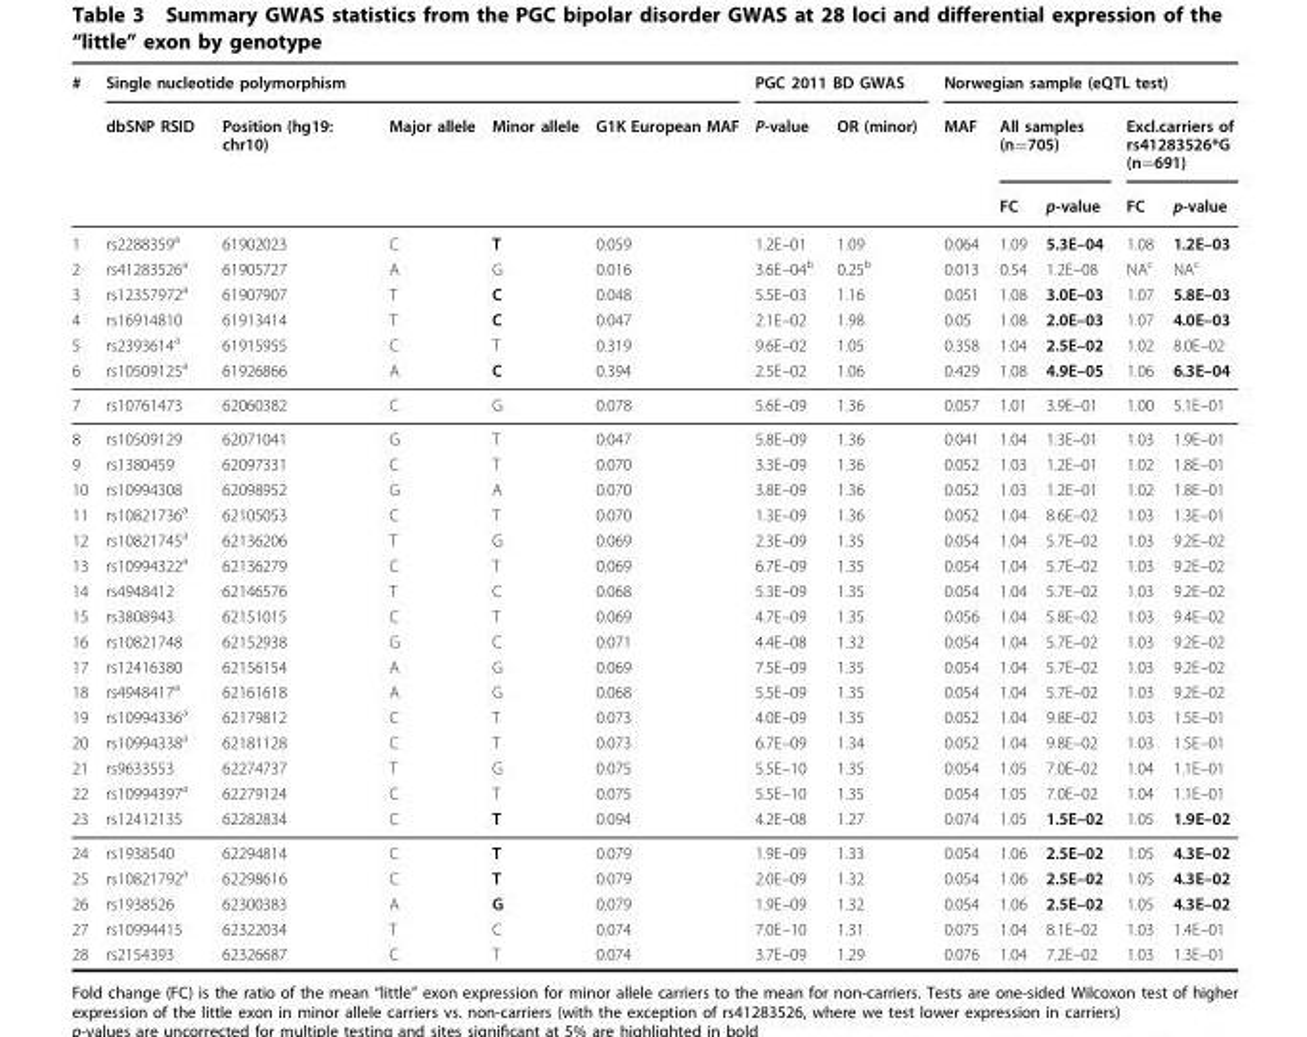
<table><thead><tr><td rowspan="3">#</td><td colspan="5">Single nucleotide polymorphism</td><td colspan="2">PGC 2011 BD GWAS</td><td colspan="5">Norwegian sample (eQTL test)</td></tr><tr><td rowspan="2">dbSNP RSID</td><td rowspan="2">Position (hg19: chr10)</td><td rowspan="2">Major allele</td><td rowspan="2">Minor allele</td><td rowspan="2">G1K European MAF</td><td rowspan="2">P-value</td><td rowspan="2">OR (minor)</td><td rowspan="2">MAF</td><td colspan="2">All samples (n=705)</td><td colspan="2">Excl.carriers of rs41283526*G (n=691)</td></tr><tr><td>FC</td><td>p-value</td><td>FC</td><td>p-value</td></tr></thead><tbody><tr><td>1</td><td>rs2288359<sup>a</sup></td><td>61902023</td><td>C</td><td>T</td><td>0.059</td><td>1.2E–01</td><td>1.09</td><td>0.064</td><td>1.09</td><td>5.3E–04</td><td>1.08</td><td>1.2E–03</td></tr><tr><td>2</td><td>rs41283526<sup>a</sup></td><td>61905727</td><td>A</td><td>G</td><td>0.016</td><td>3.6E–04<sup>b</sup></td><td>0.25<sup>b</sup></td><td>0.013</td><td>0.54</td><td>1.2E–08</td><td>NA<sup>c</sup></td><td>NA<sup>c</sup></td></tr><tr><td>3</td><td>rs12357972<sup>a</sup></td><td>61907907</td><td>T</td><td>C</td><td>0.048</td><td>5.5E–03</td><td>1.16</td><td>0.051</td><td>1.08</td><td>3.0E–03</td><td>1.07</td><td>5.8E–03</td></tr><tr><td>4</td><td>rs16914810</td><td>61913414</td><td>T</td><td>C</td><td>0.047</td><td>2.1E–02</td><td>1.98</td><td>0.05</td><td>1.08</td><td>2.0E–03</td><td>1.07</td><td>4.0E–03</td></tr><tr><td>5</td><td>rs2393614<sup>a</sup></td><td>61915955</td><td>C</td><td>T</td><td>0.319</td><td>9.6E–02</td><td>1.05</td><td>0.358</td><td>1.04</td><td>2.5E–02</td><td>1.02</td><td>8.0E–02</td></tr><tr><td>6</td><td>rs10509125<sup>a</sup></td><td>61926866</td><td>A</td><td>C</td><td>0.394</td><td>2.5E–02</td><td>1.06</td><td>0.429</td><td>1.08</td><td>4.9E–05</td><td>1.06</td><td>6.3E–04</td></tr><tr><td>7</td><td>rs10761473</td><td>62060382</td><td>C</td><td>G</td><td>0.078</td><td>5.6E–09</td><td>1.36</td><td>0.057</td><td>1.01</td><td>3.9E–01</td><td>1.00</td><td>5.1E–01</td></tr><tr><td>8</td><td>rs10509129</td><td>62071041</td><td>G</td><td>T</td><td>0.047</td><td>5.8E–09</td><td>1.36</td><td>0.041</td><td>1.04</td><td>1.3E–01</td><td>1.03</td><td>1.9E–01</td></tr><tr><td>9</td><td>rs1380459</td><td>62097331</td><td>C</td><td>T</td><td>0.070</td><td>3.3E–09</td><td>1.36</td><td>0.052</td><td>1.03</td><td>1.2E–01</td><td>1.02</td><td>1.8E–01</td></tr><tr><td>10</td><td>rs10994308</td><td>62098952</td><td>G</td><td>A</td><td>0.070</td><td>3.8E–09</td><td>1.36</td><td>0.052</td><td>1.03</td><td>1.2E–01</td><td>1.02</td><td>1.8E–01</td></tr><tr><td>11</td><td>rs10821736<sup>a</sup></td><td>62105053</td><td>C</td><td>T</td><td>0.070</td><td>1.3E–09</td><td>1.36</td><td>0.052</td><td>1.04</td><td>8.6E–02</td><td>1.03</td><td>1.3E–01</td></tr><tr><td>12</td><td>rs10821745<sup>a</sup></td><td>62136206</td><td>T</td><td>G</td><td>0.069</td><td>2.3E–09</td><td>1.35</td><td>0.054</td><td>1.04</td><td>5.7E–02</td><td>1.03</td><td>9.2E–02</td></tr><tr><td>13</td><td>rs10994322<sup>a</sup></td><td>62136279</td><td>C</td><td>T</td><td>0.069</td><td>6.7E–09</td><td>1.35</td><td>0.054</td><td>1.04</td><td>5.7E–02</td><td>1.03</td><td>9.2E–02</td></tr><tr><td>14</td><td>rs4948412</td><td>62146576</td><td>T</td><td>C</td><td>0.068</td><td>5.3E–09</td><td>1.35</td><td>0.054</td><td>1.04</td><td>5.7E–02</td><td>1.03</td><td>9.2E–02</td></tr><tr><td>15</td><td>rs3808943</td><td>62151015</td><td>C</td><td>T</td><td>0.069</td><td>4.7E–09</td><td>1.35</td><td>0.056</td><td>1.04</td><td>5.8E–02</td><td>1.03</td><td>9.4E–02</td></tr><tr><td>16</td><td>rs10821748</td><td>62152938</td><td>G</td><td>C</td><td>0.071</td><td>4.4E–08</td><td>1.32</td><td>0.054</td><td>1.04</td><td>5.7E–02</td><td>1.03</td><td>9.2E–02</td></tr><tr><td>17</td><td>rs12416380</td><td>62156154</td><td>A</td><td>G</td><td>0.069</td><td>7.5E–09</td><td>1.35</td><td>0.054</td><td>1.04</td><td>5.7E–02</td><td>1.03</td><td>9.2E–02</td></tr><tr><td>18</td><td>rs4948417<sup>a</sup></td><td>62161618</td><td>A</td><td>G</td><td>0.068</td><td>5.5E–09</td><td>1.35</td><td>0.054</td><td>1.04</td><td>5.7E–02</td><td>1.03</td><td>9.2E–02</td></tr><tr><td>19</td><td>rs10994336<sup>a</sup></td><td>62179812</td><td>C</td><td>T</td><td>0.073</td><td>4.0E–09</td><td>1.35</td><td>0.052</td><td>1.04</td><td>9.8E–02</td><td>1.03</td><td>1.5E–01</td></tr><tr><td>20</td><td>rs10994338<sup>a</sup></td><td>62181128</td><td>C</td><td>T</td><td>0.073</td><td>6.7E–09</td><td>1.34</td><td>0.052</td><td>1.04</td><td>9.8E–02</td><td>1.03</td><td>1.5E–01</td></tr><tr><td>21</td><td>rs9633553</td><td>62274737</td><td>T</td><td>G</td><td>0.075</td><td>5.5E–10</td><td>1.35</td><td>0.054</td><td>1.05</td><td>7.0E–02</td><td>1.04</td><td>1.1E–01</td></tr><tr><td>22</td><td>rs10994397<sup>a</sup></td><td>62279124</td><td>C</td><td>T</td><td>0.075</td><td>5.5E–10</td><td>1.35</td><td>0.054</td><td>1.05</td><td>7.0E–02</td><td>1.04</td><td>1.1E–01</td></tr><tr><td>23</td><td>rs12412135</td><td>62282834</td><td>C</td><td>T</td><td>0.094</td><td>4.2E–08</td><td>1.27</td><td>0.074</td><td>1.05</td><td>1.5E–02</td><td>1.05</td><td>1.9E–02</td></tr><tr><td>24</td><td>rs1938540</td><td>62294814</td><td>C</td><td>T</td><td>0.079</td><td>1.9E–09</td><td>1.33</td><td>0.054</td><td>1.06</td><td>2.5E–02</td><td>1.05</td><td>4.3E–02</td></tr><tr><td>25</td><td>rs10821792<sup>a</sup></td><td>62298616</td><td>C</td><td>T</td><td>0.079</td><td>2.0E–09</td><td>1.32</td><td>0.054</td><td>1.06</td><td>2.5E–02</td><td>1.05</td><td>4.3E–02</td></tr><tr><td>26</td><td>rs1938526</td><td>62300383</td><td>A</td><td>G</td><td>0.079</td><td>1.9E–09</td><td>1.32</td><td>0.054</td><td>1.06</td><td>2.5E–02</td><td>1.05</td><td>4.3E–02</td></tr><tr><td>27</td><td>rs10994415</td><td>62322034</td><td>T</td><td>C</td><td>0.074</td><td>7.0E–10</td><td>1.31</td><td>0.075</td><td>1.04</td><td>8.1E–02</td><td>1.03</td><td>1.4E–01</td></tr><tr><td>28</td><td>rs2154393</td><td>62326687</td><td>C</td><td>T</td><td>0.074</td><td>3.7E–09</td><td>1.29</td><td>0.076</td><td>1.04</td><td>7.2E–02</td><td>1.03</td><td>1.3E–01</td></tr></tbody></table>